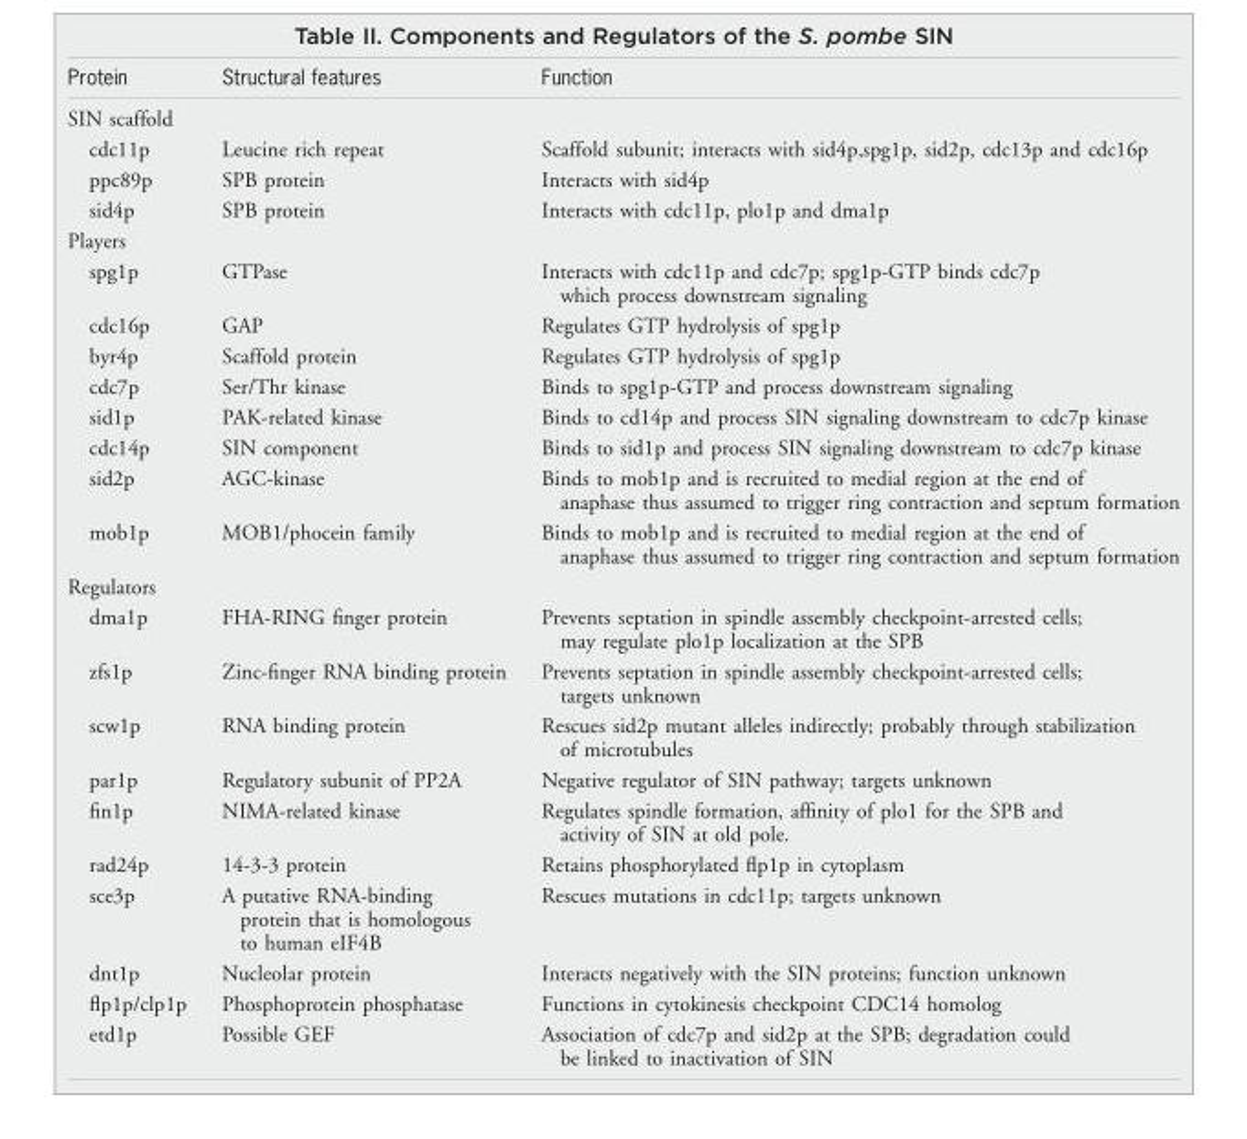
<table><thead><tr><td>Protein</td><td>Structural features</td><td>Function</td></tr></thead><tbody><tr><td colspan="3">SIN scaffold</td></tr><tr><td>cdc11p</td><td>Leucine rich repeat</td><td>Scaffold subunit; interacts with sid4p,spg1p, sid2p, cdc13p and cdc16p</td></tr><tr><td>ppc89p</td><td>SPB protein</td><td>Interacts with sid4p</td></tr><tr><td>sid4p</td><td>SPB protein</td><td>Interacts with cdc11p, plo1p and dma1p</td></tr><tr><td colspan="3">Players</td></tr><tr><td>spg1p</td><td>GTPase</td><td>Interacts with cdc11p and cdc7p; spg1p-GTP binds cdc7p which process downstream signaling</td></tr><tr><td>cdc16p</td><td>GAP</td><td>Regulates GTP hydrolysis of spg1p</td></tr><tr><td>byr4p</td><td>Scaffold protein</td><td>Regulates GTP hydrolysis of spg1p</td></tr><tr><td>cdc7p</td><td>Ser/Thr kinase</td><td>Binds to spg1p-GTP and process downstream signaling</td></tr><tr><td>sid1p</td><td>PAK-related kinase</td><td>Binds to cd14p and process SIN signaling downstream to cdc7p kinase</td></tr><tr><td>cdc14p</td><td>SIN component</td><td>Binds to sid1p and process SIN signaling downstream to cdc7p kinase</td></tr><tr><td>sid2p</td><td>AGC-kinase</td><td>Binds to mob1p and is recruited to medial region at the end of anaphase thus assumed to trigger ring contraction and septum formation</td></tr><tr><td>mob1p</td><td>MOB1/phocein family</td><td>Binds to mob1p and is recruited to medial region at the end of anaphase thus assumed to trigger ring contraction and septum formation</td></tr><tr><td colspan="3">Regulators</td></tr><tr><td>dma1p</td><td>FHA-RING finger protein</td><td>Prevents septation in spindle assembly checkpoint-arrested cells; may regulate plo1p localization at the SPB</td></tr><tr><td>zfs1p</td><td>Zinc-finger RNA binding protein</td><td>Prevents septation in spindle assembly checkpoint-arrested cells; targets unknown</td></tr><tr><td>scw1p</td><td>RNA binding protein</td><td>Rescues sid2p mutant alleles indirectly; probably through stabilization of microtubules</td></tr><tr><td>par1p</td><td>Regulatory subunit of PP2A</td><td>Negative regulator of SIN pathway; targets unknown</td></tr><tr><td>fin1p</td><td>NIMA-related kinase</td><td>Regulates spindle formation, affinity of plo1 for the SPB and activity of SIN at old pole.</td></tr><tr><td>rad24p</td><td>14-3-3 protein</td><td>Retains phosphorylated flp1p in cytoplasm</td></tr><tr><td>sce3p</td><td>A putative RNA-binding protein that is homologous to human eIF4B</td><td>Rescues mutations in cdc11p; targets unknown</td></tr><tr><td>dnt1p</td><td>Nucleolar protein</td><td>Interacts negatively with the SIN proteins; function unknown</td></tr><tr><td>flp1p/clp1p</td><td>Phosphoprotein phosphatase</td><td>Functions in cytokinesis checkpoint CDC14 homolog</td></tr><tr><td>etd1p</td><td>Possible GEF</td><td>Association of cdc7p and sid2p at the SPB; degradation could be linked to inactivation of SIN</td></tr></tbody></table>